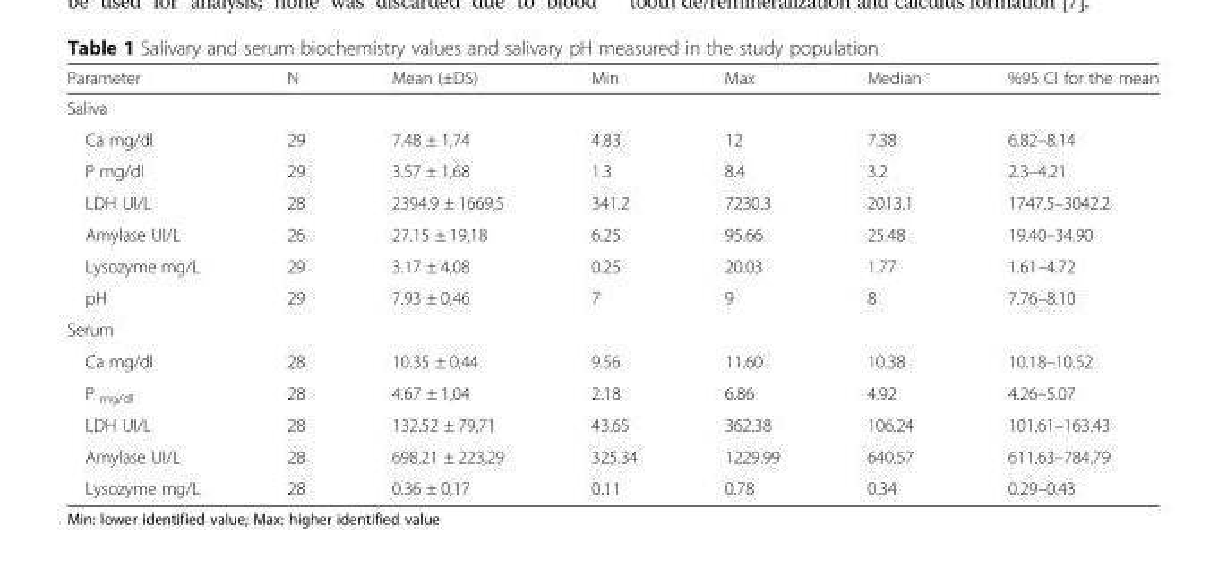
<table><thead><tr><td>Parameter</td><td>N</td><td>Mean (±DS)</td><td>Min</td><td>Max</td><td>Median</td><td>%95 CI for the mean</td></tr></thead><tbody><tr><td colspan="7">Saliva</td></tr><tr><td>Ca mg/dl</td><td>29</td><td>7.48 ± 1,74</td><td>4.83</td><td>12</td><td>7.38</td><td>6.82–8.14</td></tr><tr><td>P mg/dl</td><td>29</td><td>3.57 ± 1,68</td><td>1.3</td><td>8.4</td><td>3.2</td><td>2.3–4.21</td></tr><tr><td>LDH UI/L</td><td>28</td><td>2394.9 ± 1669,5</td><td>341.2</td><td>7230.3</td><td>2013.1</td><td>1747.5–3042.2</td></tr><tr><td>Amylase UI/L</td><td>26</td><td>27.15 ± 19,18</td><td>6.25</td><td>95.66</td><td>25.48</td><td>19.40–34.90</td></tr><tr><td>Lysozyme mg/L</td><td>29</td><td>3.17 ± 4,08</td><td>0.25</td><td>20.03</td><td>1.77</td><td>1.61–4.72</td></tr><tr><td>pH</td><td>29</td><td>7.93 ± 0,46</td><td>7</td><td>9</td><td>8</td><td>7.76–8.10</td></tr><tr><td colspan="7">Serum</td></tr><tr><td>Ca mg/dl</td><td>28</td><td>10.35 ± 0,44</td><td>9.56</td><td>11.60</td><td>10.38</td><td>10.18–10.52</td></tr><tr><td>P <sub>mg/dl</sub></td><td>28</td><td>4.67 ± 1,04</td><td>2.18</td><td>6.86</td><td>4.92</td><td>4.26–5.07</td></tr><tr><td>LDH UI/L</td><td>28</td><td>132.52 ± 79,71</td><td>43.65</td><td>362.38</td><td>106.24</td><td>101.61–163.43</td></tr><tr><td>Amylase UI/L</td><td>28</td><td>698.21 ± 223,29</td><td>325.34</td><td>1229.99</td><td>640.57</td><td>611.63–784.79</td></tr><tr><td>Lysozyme mg/L</td><td>28</td><td>0.36 ± 0,17</td><td>0.11</td><td>0.78</td><td>0.34</td><td>0.29–0.43</td></tr></tbody></table>